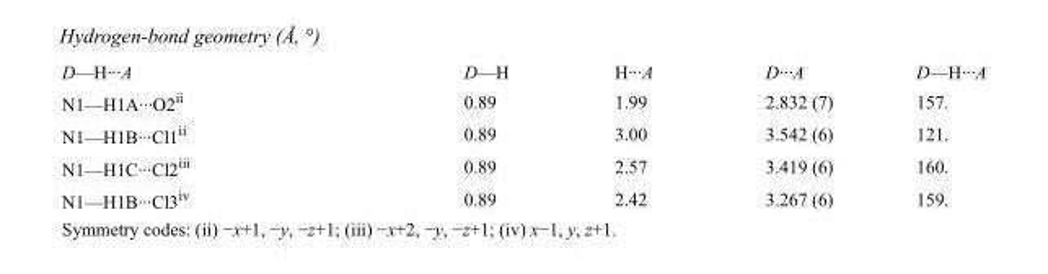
<table><tbody><tr><td>D—H···A</td><td>D—H</td><td>H···A</td><td>D···A</td><td>D—H···A</td></tr><tr><td>N1—H1A···O2<sup>ii</sup></td><td>0.89</td><td>1.99</td><td>2.832 (7)</td><td>157.</td></tr><tr><td>N1—H1B···Cl1<sup>ii</sup></td><td>0.89</td><td>3.00</td><td>3.542 (6)</td><td>121.</td></tr><tr><td>N1—H1C···Cl2<sup>iii</sup></td><td>0.89</td><td>2.57</td><td>3.419 (6)</td><td>160.</td></tr><tr><td>N1—H1B···Cl3<sup>iv</sup></td><td>0.89</td><td>2.42</td><td>3.267 (6)</td><td>159.</td></tr></tbody></table>